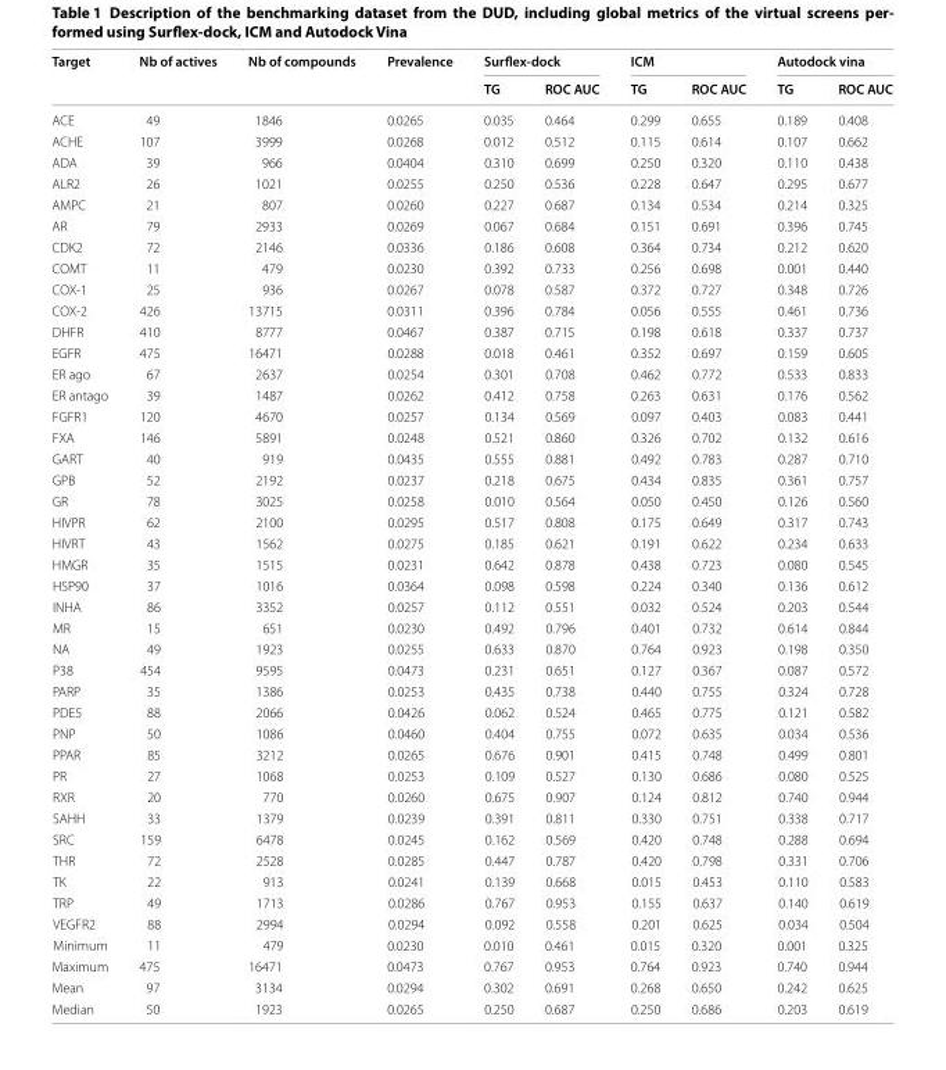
<table><thead><tr><td rowspan="2">Target</td><td rowspan="2">Nb of actives</td><td rowspan="2">Nb of compounds</td><td rowspan="2">Prevalence</td><td colspan="2">Surflex-dock</td><td colspan="2">ICM</td><td colspan="2">Autodock vina</td></tr><tr><td>TG</td><td>ROC AUC</td><td>TG</td><td>ROC AUC</td><td>TG</td><td>ROC AUC</td></tr></thead><tbody><tr><td>ACE</td><td>49</td><td>1846</td><td>0.0265</td><td>0.035</td><td>0.464</td><td>0.299</td><td>0.655</td><td>0.189</td><td>0.408</td></tr><tr><td>ACHE</td><td>107</td><td>3999</td><td>0.0268</td><td>0.012</td><td>0.512</td><td>0.115</td><td>0.614</td><td>0.107</td><td>0.662</td></tr><tr><td>ADA</td><td>39</td><td>966</td><td>0.0404</td><td>0.310</td><td>0.699</td><td>0.250</td><td>0.320</td><td>0.110</td><td>0.438</td></tr><tr><td>ALR2</td><td>26</td><td>1021</td><td>0.0255</td><td>0.250</td><td>0.536</td><td>0.228</td><td>0.647</td><td>0.295</td><td>0.677</td></tr><tr><td>AMPC</td><td>21</td><td>807</td><td>0.0260</td><td>0.227</td><td>0.687</td><td>0.134</td><td>0.534</td><td>0.214</td><td>0.325</td></tr><tr><td>AR</td><td>79</td><td>2933</td><td>0.0269</td><td>0.067</td><td>0.684</td><td>0.151</td><td>0.691</td><td>0.396</td><td>0.745</td></tr><tr><td>CDK2</td><td>72</td><td>2146</td><td>0.0336</td><td>0.186</td><td>0.608</td><td>0.364</td><td>0.734</td><td>0.212</td><td>0.620</td></tr><tr><td>COMT</td><td>11</td><td>479</td><td>0.0230</td><td>0.392</td><td>0.733</td><td>0.256</td><td>0.698</td><td>0.001</td><td>0.440</td></tr><tr><td>COX‑1</td><td>25</td><td>936</td><td>0.0267</td><td>0.078</td><td>0.587</td><td>0.372</td><td>0.727</td><td>0.348</td><td>0.726</td></tr><tr><td>COX‑2</td><td>426</td><td>13715</td><td>0.0311</td><td>0.396</td><td>0.784</td><td>0.056</td><td>0.555</td><td>0.461</td><td>0.736</td></tr><tr><td>DHFR</td><td>410</td><td>8777</td><td>0.0467</td><td>0.387</td><td>0.715</td><td>0.198</td><td>0.618</td><td>0.337</td><td>0.737</td></tr><tr><td>EGFR</td><td>475</td><td>16471</td><td>0.0288</td><td>0.018</td><td>0.461</td><td>0.352</td><td>0.697</td><td>0.159</td><td>0.605</td></tr><tr><td>ER ago</td><td>67</td><td>2637</td><td>0.0254</td><td>0.301</td><td>0.708</td><td>0.462</td><td>0.772</td><td>0.533</td><td>0.833</td></tr><tr><td>ER antago</td><td>39</td><td>1487</td><td>0.0262</td><td>0.412</td><td>0.758</td><td>0.263</td><td>0.631</td><td>0.176</td><td>0.562</td></tr><tr><td>FGFR1</td><td>120</td><td>4670</td><td>0.0257</td><td>0.134</td><td>0.569</td><td>0.097</td><td>0.403</td><td>0.083</td><td>0.441</td></tr><tr><td>FXA</td><td>146</td><td>5891</td><td>0.0248</td><td>0.521</td><td>0.860</td><td>0.326</td><td>0.702</td><td>0.132</td><td>0.616</td></tr><tr><td>GART</td><td>40</td><td>919</td><td>0.0435</td><td>0.555</td><td>0.881</td><td>0.492</td><td>0.783</td><td>0.287</td><td>0.710</td></tr><tr><td>GPB</td><td>52</td><td>2192</td><td>0.0237</td><td>0.218</td><td>0.675</td><td>0.434</td><td>0.835</td><td>0.361</td><td>0.757</td></tr><tr><td>GR</td><td>78</td><td>3025</td><td>0.0258</td><td>0.010</td><td>0.564</td><td>0.050</td><td>0.450</td><td>0.126</td><td>0.560</td></tr><tr><td>HIVPR</td><td>62</td><td>2100</td><td>0.0295</td><td>0.517</td><td>0.808</td><td>0.175</td><td>0.649</td><td>0.317</td><td>0.743</td></tr><tr><td>HIVRT</td><td>43</td><td>1562</td><td>0.0275</td><td>0.185</td><td>0.621</td><td>0.191</td><td>0.622</td><td>0.234</td><td>0.633</td></tr><tr><td>HMGR</td><td>35</td><td>1515</td><td>0.0231</td><td>0.642</td><td>0.878</td><td>0.438</td><td>0.723</td><td>0.080</td><td>0.545</td></tr><tr><td>HSP90</td><td>37</td><td>1016</td><td>0.0364</td><td>0.098</td><td>0.598</td><td>0.224</td><td>0.340</td><td>0.136</td><td>0.612</td></tr><tr><td>INHA</td><td>86</td><td>3352</td><td>0.0257</td><td>0.112</td><td>0.551</td><td>0.032</td><td>0.524</td><td>0.203</td><td>0.544</td></tr><tr><td>MR</td><td>15</td><td>651</td><td>0.0230</td><td>0.492</td><td>0.796</td><td>0.401</td><td>0.732</td><td>0.614</td><td>0.844</td></tr><tr><td>NA</td><td>49</td><td>1923</td><td>0.0255</td><td>0.633</td><td>0.870</td><td>0.764</td><td>0.923</td><td>0.198</td><td>0.350</td></tr><tr><td>P38</td><td>454</td><td>9595</td><td>0.0473</td><td>0.231</td><td>0.651</td><td>0.127</td><td>0.367</td><td>0.087</td><td>0.572</td></tr><tr><td>PARP</td><td>35</td><td>1386</td><td>0.0253</td><td>0.435</td><td>0.738</td><td>0.440</td><td>0.755</td><td>0.324</td><td>0.728</td></tr><tr><td>PDE5</td><td>88</td><td>2066</td><td>0.0426</td><td>0.062</td><td>0.524</td><td>0.465</td><td>0.775</td><td>0.121</td><td>0.582</td></tr><tr><td>PNP</td><td>50</td><td>1086</td><td>0.0460</td><td>0.404</td><td>0.755</td><td>0.072</td><td>0.635</td><td>0.034</td><td>0.536</td></tr><tr><td>PPAR</td><td>85</td><td>3212</td><td>0.0265</td><td>0.676</td><td>0.901</td><td>0.415</td><td>0.748</td><td>0.499</td><td>0.801</td></tr><tr><td>PR</td><td>27</td><td>1068</td><td>0.0253</td><td>0.109</td><td>0.527</td><td>0.130</td><td>0.686</td><td>0.080</td><td>0.525</td></tr><tr><td>RXR</td><td>20</td><td>770</td><td>0.0260</td><td>0.675</td><td>0.907</td><td>0.124</td><td>0.812</td><td>0.740</td><td>0.944</td></tr><tr><td>SAHH</td><td>33</td><td>1379</td><td>0.0239</td><td>0.391</td><td>0.811</td><td>0.330</td><td>0.751</td><td>0.338</td><td>0.717</td></tr><tr><td>SRC</td><td>159</td><td>6478</td><td>0.0245</td><td>0.162</td><td>0.569</td><td>0.420</td><td>0.748</td><td>0.288</td><td>0.694</td></tr><tr><td>THR</td><td>72</td><td>2528</td><td>0.0285</td><td>0.447</td><td>0.787</td><td>0.420</td><td>0.798</td><td>0.331</td><td>0.706</td></tr><tr><td>TK</td><td>22</td><td>913</td><td>0.0241</td><td>0.139</td><td>0.668</td><td>0.015</td><td>0.453</td><td>0.110</td><td>0.583</td></tr><tr><td>TRP</td><td>49</td><td>1713</td><td>0.0286</td><td>0.767</td><td>0.953</td><td>0.155</td><td>0.637</td><td>0.140</td><td>0.619</td></tr><tr><td>VEGFR2</td><td>88</td><td>2994</td><td>0.0294</td><td>0.092</td><td>0.558</td><td>0.201</td><td>0.625</td><td>0.034</td><td>0.504</td></tr><tr><td>Minimum</td><td>11</td><td>479</td><td>0.0230</td><td>0.010</td><td>0.461</td><td>0.015</td><td>0.320</td><td>0.001</td><td>0.325</td></tr><tr><td>Maximum</td><td>475</td><td>16471</td><td>0.0473</td><td>0.767</td><td>0.953</td><td>0.764</td><td>0.923</td><td>0.740</td><td>0.944</td></tr><tr><td>Mean</td><td>97</td><td>3134</td><td>0.0294</td><td>0.302</td><td>0.691</td><td>0.268</td><td>0.650</td><td>0.242</td><td>0.625</td></tr><tr><td>Median</td><td>50</td><td>1923</td><td>0.0265</td><td>0.250</td><td>0.687</td><td>0.250</td><td>0.686</td><td>0.203</td><td>0.619</td></tr></tbody></table>